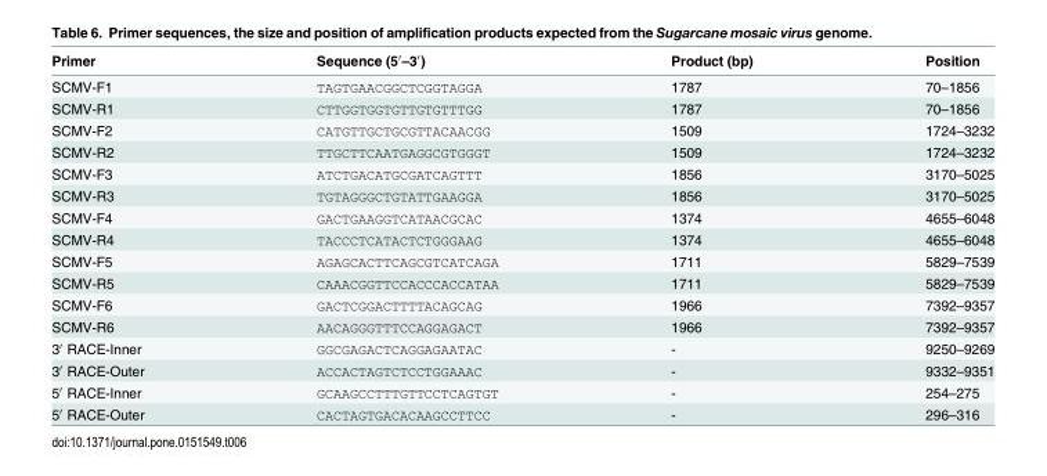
<table><thead><tr><td>Primer</td><td>Sequence (5′–3′)</td><td>Product (bp)</td><td>Position</td></tr></thead><tbody><tr><td>SCMV-F1</td><td>TAGTGAACGGCTCGGTAGGA</td><td>1787</td><td>70–1856</td></tr><tr><td>SCMV-R1</td><td>CTTGGTGGTGTTGTGTTTGG</td><td>1787</td><td>70–1856</td></tr><tr><td>SCMV-F2</td><td>CATGTTGCTGCGTTACAACGG</td><td>1509</td><td>1724–3232</td></tr><tr><td>SCMV-R2</td><td>TTGCTTCAATGAGGCGTGGGT</td><td>1509</td><td>1724–3232</td></tr><tr><td>SCMV-F3</td><td>ATCTGACATGCGATCAGTTT</td><td>1856</td><td>3170–5025</td></tr><tr><td>SCMV-R3</td><td>TGTAGGGCTGTATTGAAGGA</td><td>1856</td><td>3170–5025</td></tr><tr><td>SCMV-F4</td><td>GACTGAAGGTCATAACGCAC</td><td>1374</td><td>4655–6048</td></tr><tr><td>SCMV-R4</td><td>TACCCTCATACTCTGGGAAG</td><td>1374</td><td>4655–6048</td></tr><tr><td>SCMV-F5</td><td>AGAGCACTTCAGCGTCATCAGA</td><td>1711</td><td>5829–7539</td></tr><tr><td>SCMV-R5</td><td>CAAACGGTTCCACCCACCATAA</td><td>1711</td><td>5829–7539</td></tr><tr><td>SCMV-F6</td><td>GACTCGGACTTTTACAGCAG</td><td>1966</td><td>7392–9357</td></tr><tr><td>SCMV-R6</td><td>AACAGGGTTTCCAGGAGACT</td><td>1966</td><td>7392–9357</td></tr><tr><td>3′ RACE-Inner</td><td>GGCGAGACTCAGGAGAATAC</td><td>-</td><td>9250–9269</td></tr><tr><td>3′ RACE-Outer</td><td>ACCACTAGTCTCCTGGAAAC</td><td>-</td><td>9332–9351</td></tr><tr><td>5′ RACE-Inner</td><td>GCAAGCCTTTGTTCCTCAGTGT</td><td>-</td><td>254–275</td></tr><tr><td>5′ RACE-Outer</td><td>CACTAGTGACACAAGCCTTCC</td><td>-</td><td>296–316</td></tr></tbody></table>